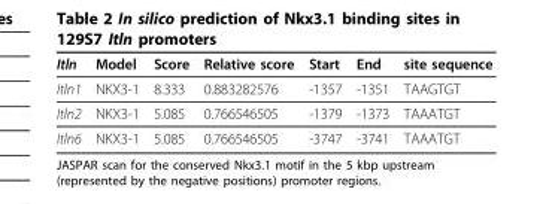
<table><thead><tr><td>Itln</td><td>Model</td><td>Score</td><td>Relative score</td><td>Start</td><td>End</td><td>site sequence</td></tr></thead><tbody><tr><td>Itln1</td><td>NKX3-1</td><td>8.333</td><td>0.883282576</td><td>-1357</td><td>-1351</td><td>TAAGTGT</td></tr><tr><td>Itln2</td><td>NKX3-1</td><td>5.085</td><td>0.766546505</td><td>-1379</td><td>-1373</td><td>TAAATGT</td></tr><tr><td>Itln6</td><td>NKX3-1</td><td>5.085</td><td>0.766546505</td><td>-3747</td><td>-3741</td><td>TAAATGT</td></tr></tbody></table>